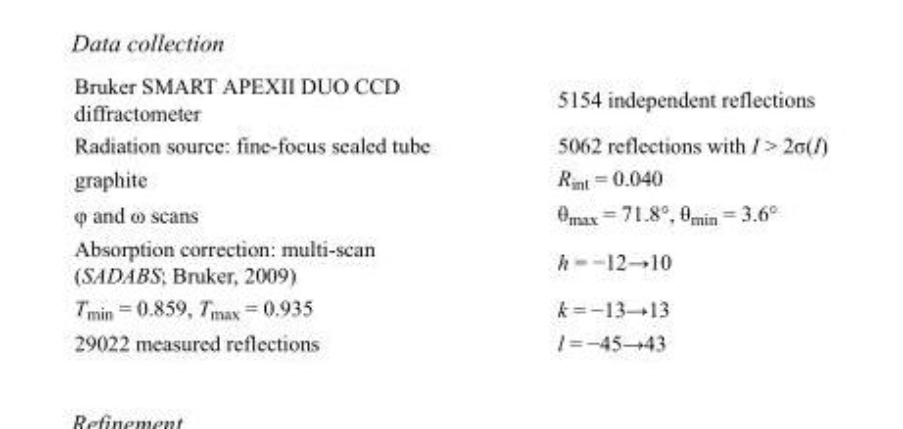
<table><tbody><tr><td>Bruker SMART APEXII DUO CCD diffractometer</td><td>5154 independent reflections</td></tr><tr><td>Radiation source: fine-focus sealed tube</td><td>5062 reflections with I &gt; 2σ(I)</td></tr><tr><td>graphite</td><td>R<sub>int</sub> = 0.040</td></tr><tr><td>φ and ω scans</td><td>θ<sub>max</sub> = 71.8°, θ<sub>min</sub> = 3.6°</td></tr><tr><td>Absorption correction: multi-scan (SADABS; Bruker, 2009)</td><td>h = −12→10</td></tr><tr><td>T<sub>min</sub> = 0.859, T<sub>max</sub> = 0.935</td><td>k = −13→13</td></tr><tr><td>29022 measured reflections</td><td>l = −45→43</td></tr></tbody></table>